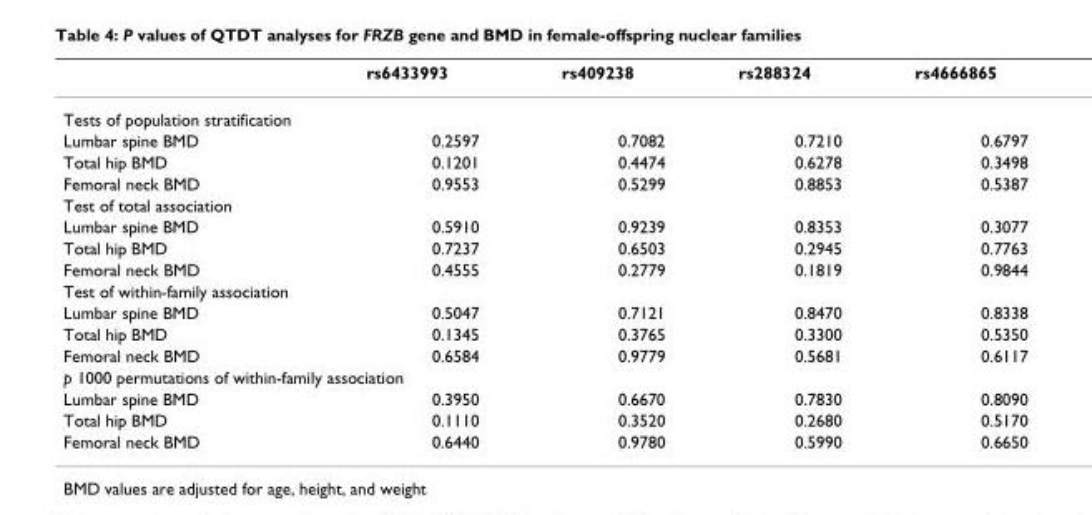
<table><thead><tr><td></td><td>rs6433993</td><td>rs409238</td><td>rs288324</td><td>rs4666865</td></tr></thead><tbody><tr><td colspan="5">Tests of population stratification</td></tr><tr><td>Lumbar spine BMD</td><td>0.2597</td><td>0.7082</td><td>0.7210</td><td>0.6797</td></tr><tr><td>Total hip BMD</td><td>0.1201</td><td>0.4474</td><td>0.6278</td><td>0.3498</td></tr><tr><td>Femoral neck BMD</td><td>0.9553</td><td>0.5299</td><td>0.8853</td><td>0.5387</td></tr><tr><td colspan="5">Test of total association</td></tr><tr><td>Lumbar spine BMD</td><td>0.5910</td><td>0.9239</td><td>0.8353</td><td>0.3077</td></tr><tr><td>Total hip BMD</td><td>0.7237</td><td>0.6503</td><td>0.2945</td><td>0.7763</td></tr><tr><td>Femoral neck BMD</td><td>0.4555</td><td>0.2779</td><td>0.1819</td><td>0.9844</td></tr><tr><td colspan="5">Test of within-family association</td></tr><tr><td>Lumbar spine BMD</td><td>0.5047</td><td>0.7121</td><td>0.8470</td><td>0.8338</td></tr><tr><td>Total hip BMD</td><td>0.1345</td><td>0.3765</td><td>0.3300</td><td>0.5350</td></tr><tr><td>Femoral neck BMD</td><td>0.6584</td><td>0.9779</td><td>0.5681</td><td>0.6117</td></tr><tr><td colspan="5">p 1000 permutations of within-family association</td></tr><tr><td>Lumbar spine BMD</td><td>0.3950</td><td>0.6670</td><td>0.7830</td><td>0.8090</td></tr><tr><td>Total hip BMD</td><td>0.1110</td><td>0.3520</td><td>0.2680</td><td>0.5170</td></tr><tr><td>Femoral neck BMD</td><td>0.6440</td><td>0.9780</td><td>0.5990</td><td>0.6650</td></tr></tbody></table>